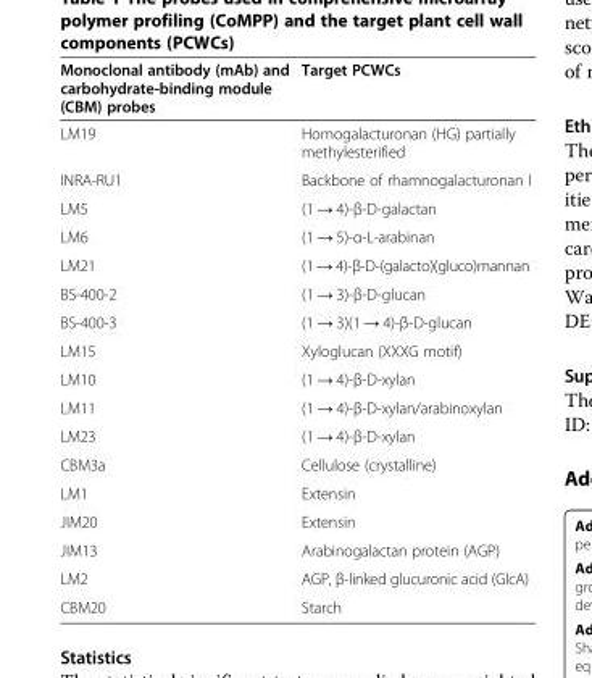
<table><thead><tr><td>Monoclonal antibody (mAb) and carbohydrate-binding module (CBM) probes</td><td>Target PCWCs</td></tr></thead><tbody><tr><td>LM19</td><td>Homogalacturonan (HG) partially methylesterified</td></tr><tr><td>INRA-RU1</td><td>Backbone of rhamnogalacturonan I</td></tr><tr><td>LM5</td><td>(1 → 4)-β-D-galactan</td></tr><tr><td>LM6</td><td>(1 → 5)-α-L-arabinan</td></tr><tr><td>LM21</td><td>(1 → 4)-β-D-(galacto)(gluco)mannan</td></tr><tr><td>BS-400-2</td><td>(1 → 3)-β-D-glucan</td></tr><tr><td>BS-400-3</td><td>(1 → 3)(1 → 4)-β-D-glucan</td></tr><tr><td>LM15</td><td>Xyloglucan (XXXG motif)</td></tr><tr><td>LM10</td><td>(1 → 4)-β-D-xylan</td></tr><tr><td>LM11</td><td>(1 → 4)-β-D-xylan/arabinoxylan</td></tr><tr><td>LM23</td><td>(1 → 4)-β-D-xylan</td></tr><tr><td>CBM3a</td><td>Cellulose (crystalline)</td></tr><tr><td>LM1</td><td>Extensin</td></tr><tr><td>JIM20</td><td>Extensin</td></tr><tr><td>JIM13</td><td>Arabinogalactan protein (AGP)</td></tr><tr><td>LM2</td><td>AGP, β-linked glucuronic acid (GlcA)</td></tr><tr><td>CBM20</td><td>Starch</td></tr></tbody></table>